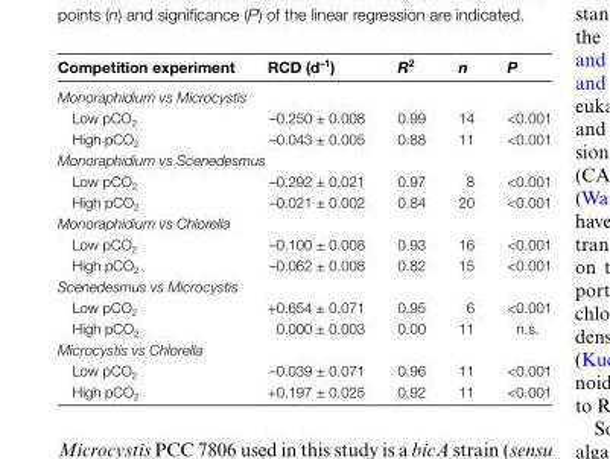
<table><thead><tr><td>Competition experiment</td><td>RCD (d<sup>–1</sup>)</td><td>R<sup>2</sup></td><td>n</td><td>P</td></tr></thead><tbody><tr><td colspan="5">Monoraphidium vs Microcystis</td></tr><tr><td>Low pCO<sub>2</sub></td><td>–0.250 ± 0.008</td><td>0.99</td><td>14</td><td>&lt;0.001</td></tr><tr><td>High pCO<sub>2</sub></td><td>–0.043 ± 0.005</td><td>0.88</td><td>11</td><td>&lt;0.001</td></tr><tr><td colspan="5">Monoraphidium vs Scenedesmus</td></tr><tr><td>Low pCO<sub>2</sub></td><td>–0.292 ± 0.021</td><td>0.97</td><td>8</td><td>&lt;0.001</td></tr><tr><td>High pCO<sub>2</sub></td><td>–0.021 ± 0.002</td><td>0.84</td><td>20</td><td>&lt;0.001</td></tr><tr><td colspan="5">Monoraphidium vs Chlorella</td></tr><tr><td>Low pCO<sub>2</sub></td><td>–0.100 ± 0.008</td><td>0.93</td><td>16</td><td>&lt;0.001</td></tr><tr><td>High pCO<sub>2</sub></td><td>–0.062 ± 0.008</td><td>0.82</td><td>15</td><td>&lt;0.001</td></tr><tr><td colspan="5">Scenedesmus vs Microcystis</td></tr><tr><td>Low pCO<sub>2</sub></td><td>+0.654 ± 0.071</td><td>0.95</td><td>6</td><td>&lt;0.001</td></tr><tr><td>High pCO<sub>2</sub></td><td>0.000 ± 0.003</td><td>0.00</td><td>11</td><td>n.s.</td></tr><tr><td colspan="5">Microcystis vs Chlorella</td></tr><tr><td>Low pCO<sub>2</sub></td><td>–0.039 ± 0.071</td><td>0.96</td><td>11</td><td>&lt;0.001</td></tr><tr><td>High pCO<sub>2</sub></td><td>+0.197 ± 0.025</td><td>0.92</td><td>11</td><td>&lt;0.001</td></tr></tbody></table>